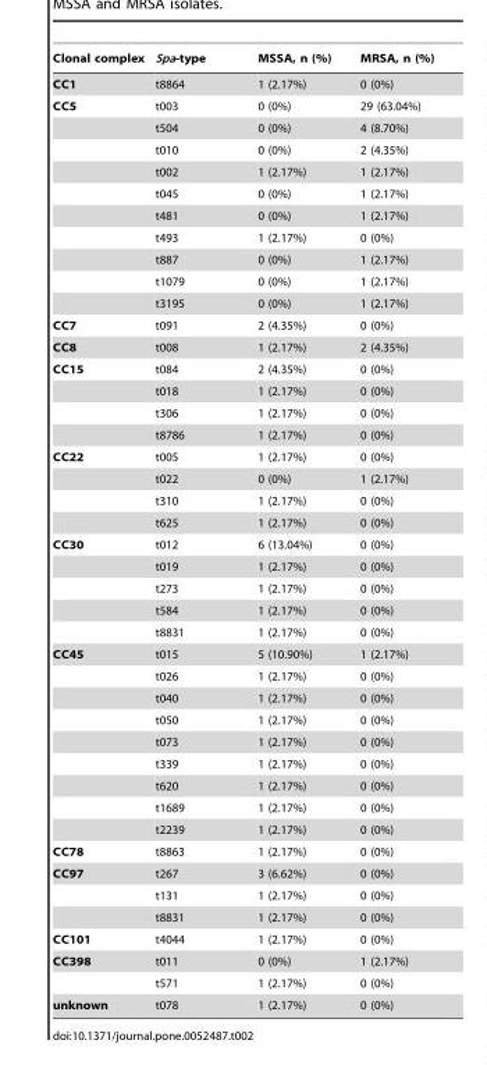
<table><thead><tr><td>Clonal complex</td><td>Spa-type</td><td>MSSA, n (%)</td><td>MRSA, n (%)</td></tr></thead><tbody><tr><td>CC1</td><td>t8864</td><td>1 (2.17%)</td><td>0 (0%)</td></tr><tr><td rowspan="10">CC5</td><td>t003</td><td>0 (0%)</td><td>29 (63.04%)</td></tr><tr><td>t504</td><td>0 (0%)</td><td>4 (8.70%)</td></tr><tr><td>t010</td><td>0 (0%)</td><td>2 (4.35%)</td></tr><tr><td>t002</td><td>1 (2.17%)</td><td>1 (2.17%)</td></tr><tr><td>t045</td><td>0 (0%)</td><td>1 (2.17%)</td></tr><tr><td>t481</td><td>0 (0%)</td><td>1 (2.17%)</td></tr><tr><td>t493</td><td>1 (2.17%)</td><td>0 (0%)</td></tr><tr><td>t887</td><td>0 (0%)</td><td>1 (2.17%)</td></tr><tr><td>t1079</td><td>0 (0%)</td><td>1 (2.17%)</td></tr><tr><td>t3195</td><td>0 (0%)</td><td>1 (2.17%)</td></tr><tr><td>CC7</td><td>t091</td><td>2 (4.35%)</td><td>0 (0%)</td></tr><tr><td>CC8</td><td>t008</td><td>1 (2.17%)</td><td>2 (4.35%)</td></tr><tr><td rowspan="4">CC15</td><td>t084</td><td>2 (4.35%)</td><td>0 (0%)</td></tr><tr><td>t018</td><td>1 (2.17%)</td><td>0 (0%)</td></tr><tr><td>t306</td><td>1 (2.17%)</td><td>0 (0%)</td></tr><tr><td>t8786</td><td>1 (2.17%)</td><td>0 (0%)</td></tr><tr><td rowspan="4">CC22</td><td>t005</td><td>1 (2.17%)</td><td>0 (0%)</td></tr><tr><td>t022</td><td>0 (0%)</td><td>1 (2.17%)</td></tr><tr><td>t310</td><td>1 (2.17%)</td><td>0 (0%)</td></tr><tr><td>t625</td><td>1 (2.17%)</td><td>0 (0%)</td></tr><tr><td rowspan="5">CC30</td><td>t012</td><td>6 (13.04%)</td><td>0 (0%)</td></tr><tr><td>t019</td><td>1 (2.17%)</td><td>0 (0%)</td></tr><tr><td>t273</td><td>1 (2.17%)</td><td>0 (0%)</td></tr><tr><td>t584</td><td>1 (2.17%)</td><td>0 (0%)</td></tr><tr><td>t8831</td><td>1 (2.17%)</td><td>0 (0%)</td></tr><tr><td rowspan="9">CC45</td><td>t015</td><td>5 (10.90%)</td><td>1 (2.17%)</td></tr><tr><td>t026</td><td>1 (2.17%)</td><td>0 (0%)</td></tr><tr><td>t040</td><td>1 (2.17%)</td><td>0 (0%)</td></tr><tr><td>t050</td><td>1 (2.17%)</td><td>0 (0%)</td></tr><tr><td>t073</td><td>1 (2.17%)</td><td>0 (0%)</td></tr><tr><td>t339</td><td>1 (2.17%)</td><td>0 (0%)</td></tr><tr><td>t620</td><td>1 (2.17%)</td><td>0 (0%)</td></tr><tr><td>t1689</td><td>1 (2.17%)</td><td>0 (0%)</td></tr><tr><td>t2239</td><td>1 (2.17%)</td><td>0 (0%)</td></tr><tr><td>CC78</td><td>t8863</td><td>1 (2.17%)</td><td>0 (0%)</td></tr><tr><td rowspan="3">CC97</td><td>t267</td><td>3 (6.62%)</td><td>0 (0%)</td></tr><tr><td>t131</td><td>1 (2.17%)</td><td>0 (0%)</td></tr><tr><td>t8831</td><td>1 (2.17%)</td><td>0 (0%)</td></tr><tr><td>CC101</td><td>t4044</td><td>1 (2.17%)</td><td>0 (0%)</td></tr><tr><td rowspan="2">CC398</td><td>t011</td><td>0 (0%)</td><td>1 (2.17%)</td></tr><tr><td>t571</td><td>1 (2.17%)</td><td>0 (0%)</td></tr><tr><td>unknown</td><td>t078</td><td>1 (2.17%)</td><td>0 (0%)</td></tr></tbody></table>